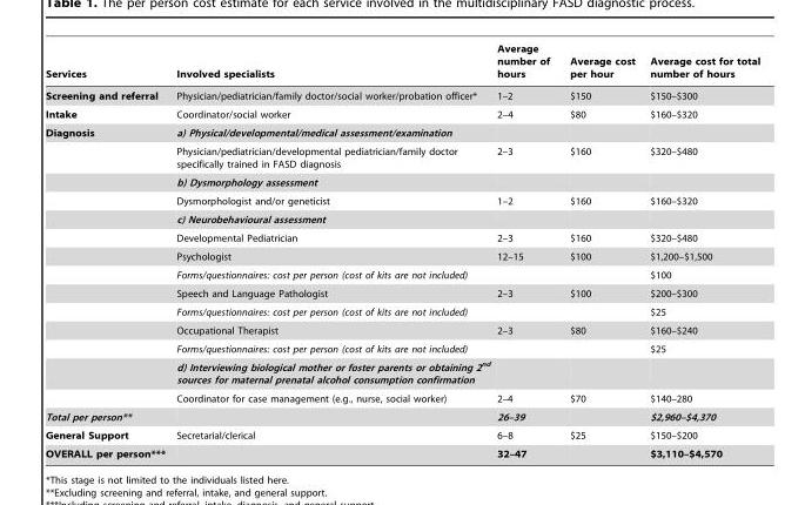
<table><thead><tr><td>Services</td><td>Involved specialists</td><td>Average number of hours</td><td>Average cost per hour</td><td>Average cost for total number of hours</td></tr></thead><tbody><tr><td>Screening and referral</td><td>Physician/pediatrician/family doctor/social worker/probation officer*</td><td>1–2</td><td>$150</td><td>$150–$300</td></tr><tr><td>Intake</td><td>Coordinator/social worker</td><td>2–4</td><td>$80</td><td>$160–$320</td></tr><tr><td rowspan="14">Diagnosis</td><td>a) Physical/developmental/medical assessment/examination</td><td></td><td></td><td></td></tr><tr><td>Physician/pediatrician/developmental pediatrician/family doctor specifically trained in FASD diagnosis</td><td>2–3</td><td>$160</td><td>$320–$480</td></tr><tr><td>b) Dysmorphology assessment</td><td></td><td></td><td></td></tr><tr><td>Dysmorphologist and/or geneticist</td><td>1–2</td><td>$160</td><td>$160–$320</td></tr><tr><td>c) Neurobehavioural assessment</td><td></td><td></td><td></td></tr><tr><td>Developmental Pediatrician</td><td>2–3</td><td>$160</td><td>$320–$480</td></tr><tr><td>Psychologist</td><td>12–15</td><td>$100</td><td>$1,200–$1,500</td></tr><tr><td>Forms/questionnaires: cost per person (cost of kits are not included)</td><td></td><td></td><td>$100</td></tr><tr><td>Speech and Language Pathologist</td><td>2–3</td><td>$100</td><td>$200–$300</td></tr><tr><td>Forms/questionnaires: cost per person (cost of kits are not included)</td><td></td><td></td><td>$25</td></tr><tr><td>Occupational Therapist</td><td>2–3</td><td>$80</td><td>$160–$240</td></tr><tr><td>Forms/questionnaires: cost per person (cost of kits are not included)</td><td></td><td></td><td>$25</td></tr><tr><td>d) Interviewing biological mother or foster parents or obtaining 2<sup>nd</sup> sources for maternal prenatal alcohol consumption confirmation</td><td></td><td></td><td></td></tr><tr><td>Coordinator for case management (e.g., nurse, social worker)</td><td>2–4</td><td>$70</td><td>$140–280</td></tr><tr><td>Total per person**</td><td></td><td>26–39</td><td></td><td>$2,960–$4,370</td></tr><tr><td>General Support</td><td>Secretarial/clerical</td><td>6–8</td><td>$25</td><td>$150–$200</td></tr><tr><td>OVERALL per person***</td><td></td><td>32–47</td><td></td><td>$3,110–$4,570</td></tr></tbody></table>